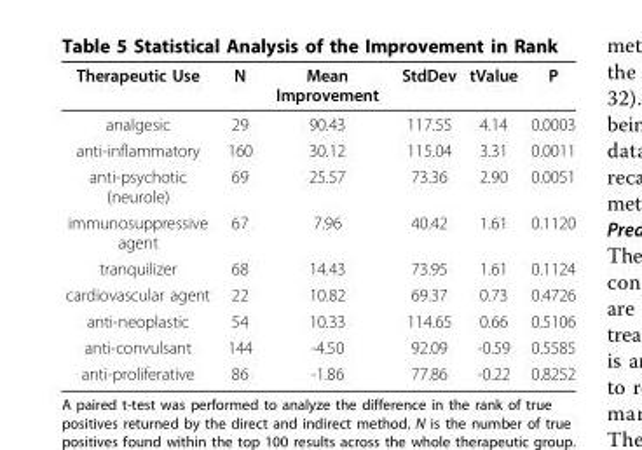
<table><thead><tr><td>Therapeutic Use</td><td>N</td><td>Mean Improvement</td><td>StdDev</td><td>tValue</td><td>P</td></tr></thead><tbody><tr><td>analgesic</td><td>29</td><td>90.43</td><td>117.55</td><td>4.14</td><td>0.0003</td></tr><tr><td>anti-inflammatory</td><td>160</td><td>30.12</td><td>115.04</td><td>3.31</td><td>0.0011</td></tr><tr><td>anti-psychotic (neurole)</td><td>69</td><td>25.57</td><td>73.36</td><td>2.90</td><td>0.0051</td></tr><tr><td>immunosuppressive agent</td><td>67</td><td>7.96</td><td>40.42</td><td>1.61</td><td>0.1120</td></tr><tr><td>tranquilizer</td><td>68</td><td>14.43</td><td>73.95</td><td>1.61</td><td>0.1124</td></tr><tr><td>cardiovascular agent</td><td>22</td><td>10.82</td><td>69.37</td><td>0.73</td><td>0.4726</td></tr><tr><td>anti-neoplastic</td><td>54</td><td>10.33</td><td>114.65</td><td>0.66</td><td>0.5106</td></tr><tr><td>anti-convulsant</td><td>144</td><td>-4.50</td><td>92.09</td><td>-0.59</td><td>0.5585</td></tr><tr><td>anti-proliferative</td><td>86</td><td>-1.86</td><td>77.86</td><td>-0.22</td><td>0.8252</td></tr></tbody></table>